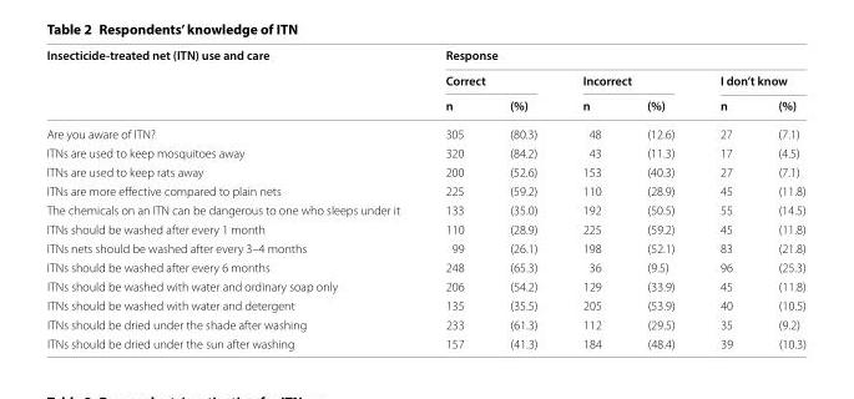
<table><thead><tr><td rowspan="3">Insecticide-treated net (ITN) use and care</td><td colspan="6">Response</td></tr><tr><td colspan="2">Correct</td><td colspan="2">Incorrect</td><td colspan="2">I don’t know</td></tr><tr><td>n</td><td>(%)</td><td>n</td><td>(%)</td><td>n</td><td>(%)</td></tr></thead><tbody><tr><td>Are you aware of ITN?</td><td>305</td><td>(80.3)</td><td>48</td><td>(12.6)</td><td>27</td><td>(7.1)</td></tr><tr><td>ITNs are used to keep mosquitoes away</td><td>320</td><td>(84.2)</td><td>43</td><td>(11.3)</td><td>17</td><td>(4.5)</td></tr><tr><td>ITNs are used to keep rats away</td><td>200</td><td>(52.6)</td><td>153</td><td>(40.3)</td><td>27</td><td>(7.1)</td></tr><tr><td>ITNs are more effective compared to plain nets</td><td>225</td><td>(59.2)</td><td>110</td><td>(28.9)</td><td>45</td><td>(11.8)</td></tr><tr><td>The chemicals on an ITN can be dangerous to one who sleeps under it</td><td>133</td><td>(35.0)</td><td>192</td><td>(50.5)</td><td>55</td><td>(14.5)</td></tr><tr><td>ITNs should be washed after every 1 month</td><td>110</td><td>(28.9)</td><td>225</td><td>(59.2)</td><td>45</td><td>(11.8)</td></tr><tr><td>ITNs nets should be washed after every 3–4 months</td><td>99</td><td>(26.1)</td><td>198</td><td>(52.1)</td><td>83</td><td>(21.8)</td></tr><tr><td>ITNs should be washed after every 6 months</td><td>248</td><td>(65.3)</td><td>36</td><td>(9.5)</td><td>96</td><td>(25.3)</td></tr><tr><td>ITNs should be washed with water and ordinary soap only</td><td>206</td><td>(54.2)</td><td>129</td><td>(33.9)</td><td>45</td><td>(11.8)</td></tr><tr><td>ITNs should be washed with water and detergent</td><td>135</td><td>(35.5)</td><td>205</td><td>(53.9)</td><td>40</td><td>(10.5)</td></tr><tr><td>ITNs should be dried under the shade after washing</td><td>233</td><td>(61.3)</td><td>112</td><td>(29.5)</td><td>35</td><td>(9.2)</td></tr><tr><td>ITNs should be dried under the sun after washing</td><td>157</td><td>(41.3)</td><td>184</td><td>(48.4)</td><td>39</td><td>(10.3)</td></tr></tbody></table>